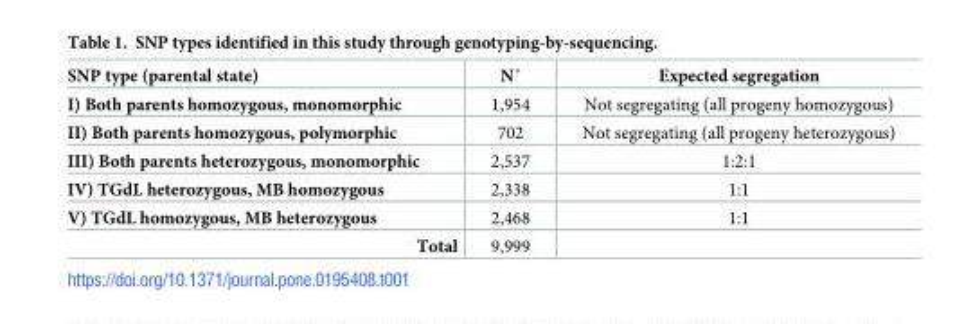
<table><thead><tr><td>SNP type (parental state)</td><td>N˚</td><td>Expected segregation</td></tr></thead><tbody><tr><td>I) Both parents homozygous, monomorphic</td><td>1,954</td><td>Not segregating (all progeny homozygous)</td></tr><tr><td>II) Both parents homozygous, polymorphic</td><td>702</td><td>Not segregating (all progeny heterozygous)</td></tr><tr><td>III) Both parents heterozygous, monomorphic</td><td>2,537</td><td>1:2:1</td></tr><tr><td>IV) TGdL heterozygous, MB homozygous</td><td>2,338</td><td>1:1</td></tr><tr><td>V) TGdL homozygous, MB heterozygous</td><td>2,468</td><td>1:1</td></tr><tr><td>Total</td><td>9,999</td><td></td></tr></tbody></table>